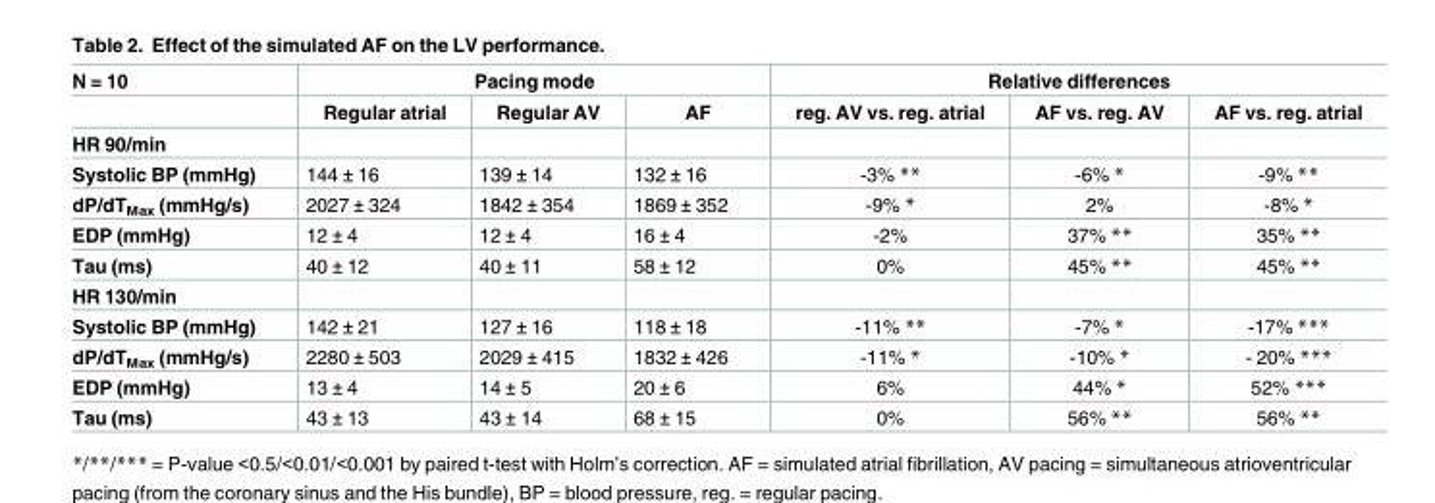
<table><thead><tr><td rowspan="2">N = 10</td><td colspan="3">Pacing mode</td><td colspan="3">Relative differences</td></tr><tr><td>Regular atrial</td><td>Regular AV</td><td>AF</td><td>reg. AV vs. reg. atrial</td><td>AF vs. reg. AV</td><td>AF vs. reg. atrial</td></tr></thead><tbody><tr><td colspan="7">HR 90/min</td></tr><tr><td>Systolic BP (mmHg)</td><td>144 ± 16</td><td>139 ± 14</td><td>132 ± 16</td><td>-3% **</td><td>-6% *</td><td>-9% **</td></tr><tr><td>dP/dT<sub>Max</sub> (mmHg/s)</td><td>2027 ± 324</td><td>1842 ± 354</td><td>1869 ± 352</td><td>-9% *</td><td>2%</td><td>-8% *</td></tr><tr><td>EDP (mmHg)</td><td>12 ± 4</td><td>12 ± 4</td><td>16 ± 4</td><td>-2%</td><td>37% **</td><td>35% **</td></tr><tr><td>Tau (ms)</td><td>40 ± 12</td><td>40 ± 11</td><td>58 ± 12</td><td>0%</td><td>45% **</td><td>45% **</td></tr><tr><td colspan="7">HR 130/min</td></tr><tr><td>Systolic BP (mmHg)</td><td>142 ± 21</td><td>127 ± 16</td><td>118 ± 18</td><td>-11% **</td><td>-7% *</td><td>-17% ***</td></tr><tr><td>dP/dT<sub>Max</sub> (mmHg/s)</td><td>2280 ± 503</td><td>2029 ± 415</td><td>1832 ± 426</td><td>-11% *</td><td>-10% *</td><td>- 20% ***</td></tr><tr><td>EDP (mmHg)</td><td>13 ± 4</td><td>14 ± 5</td><td>20 ± 6</td><td>6%</td><td>44% *</td><td>52% ***</td></tr><tr><td>Tau (ms)</td><td>43 ± 13</td><td>43 ± 14</td><td>68 ± 15</td><td>0%</td><td>56% **</td><td>56% **</td></tr></tbody></table>